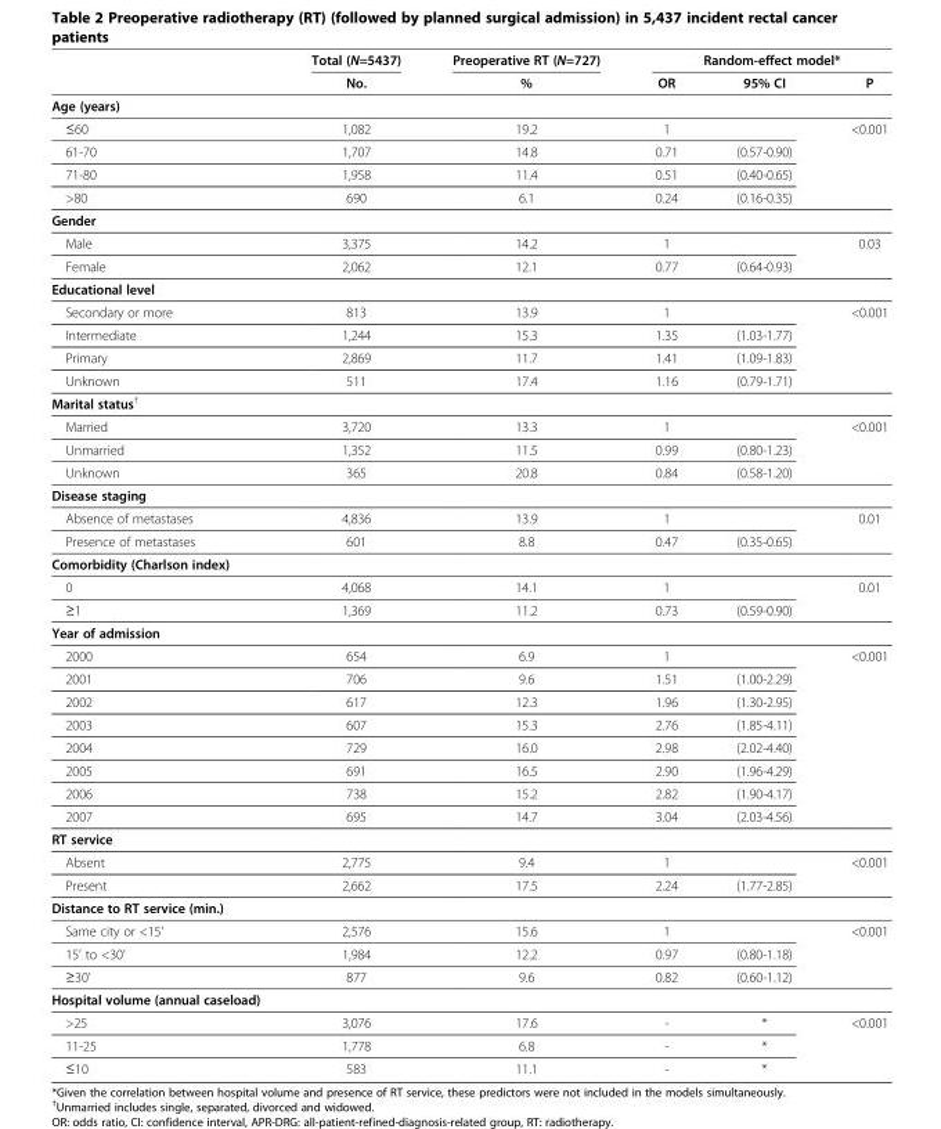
<table><thead><tr><td rowspan="2"></td><td rowspan="2">Total (N=5437) No.</td><td rowspan="2">Preoperative RT (N=727) %</td><td colspan="3">Random-effect model*</td></tr><tr><td>OR</td><td>95% CI</td><td>P</td></tr></thead><tbody><tr><td colspan="6">Age (years)</td></tr><tr><td>≤60</td><td>1,082</td><td>19.2</td><td>1</td><td></td><td>&lt;0.001</td></tr><tr><td>61-70</td><td>1,707</td><td>14.8</td><td>0.71</td><td>(0.57-0.90)</td><td></td></tr><tr><td>71-80</td><td>1,958</td><td>11.4</td><td>0.51</td><td>(0.40-0.65)</td><td></td></tr><tr><td>&gt;80</td><td>690</td><td>6.1</td><td>0.24</td><td>(0.16-0.35)</td><td></td></tr><tr><td colspan="6">Gender</td></tr><tr><td>Male</td><td>3,375</td><td>14.2</td><td>1</td><td></td><td>0.03</td></tr><tr><td>Female</td><td>2,062</td><td>12.1</td><td>0.77</td><td>(0.64-0.93)</td><td></td></tr><tr><td colspan="6">Educational level</td></tr><tr><td>Secondary or more</td><td>813</td><td>13.9</td><td>1</td><td></td><td>&lt;0.001</td></tr><tr><td>Intermediate</td><td>1,244</td><td>15.3</td><td>1.35</td><td>(1.03-1.77)</td><td></td></tr><tr><td>Primary</td><td>2,869</td><td>11.7</td><td>1.41</td><td>(1.09-1.83)</td><td></td></tr><tr><td>Unknown</td><td>511</td><td>17.4</td><td>1.16</td><td>(0.79-1.71)</td><td></td></tr><tr><td colspan="6">Marital status<sup>†</sup></td></tr><tr><td>Married</td><td>3,720</td><td>13.3</td><td>1</td><td></td><td>&lt;0.001</td></tr><tr><td>Unmarried</td><td>1,352</td><td>11.5</td><td>0.99</td><td>(0.80-1.23)</td><td></td></tr><tr><td>Unknown</td><td>365</td><td>20.8</td><td>0.84</td><td>(0.58-1.20)</td><td></td></tr><tr><td colspan="6">Disease staging</td></tr><tr><td>Absence of metastases</td><td>4,836</td><td>13.9</td><td>1</td><td></td><td>0.01</td></tr><tr><td>Presence of metastases</td><td>601</td><td>8.8</td><td>0.47</td><td>(0.35-0.65)</td><td></td></tr><tr><td colspan="6">Comorbidity (Charlson index)</td></tr><tr><td>0</td><td>4,068</td><td>14.1</td><td>1</td><td></td><td>0.01</td></tr><tr><td>≥1</td><td>1,369</td><td>11.2</td><td>0.73</td><td>(0.59-0.90)</td><td></td></tr><tr><td colspan="6">Year of admission</td></tr><tr><td>2000</td><td>654</td><td>6.9</td><td>1</td><td></td><td>&lt;0.001</td></tr><tr><td>2001</td><td>706</td><td>9.6</td><td>1.51</td><td>(1.00-2.29)</td><td></td></tr><tr><td>2002</td><td>617</td><td>12.3</td><td>1.96</td><td>(1.30-2.95)</td><td></td></tr><tr><td>2003</td><td>607</td><td>15.3</td><td>2.76</td><td>(1.85-4.11)</td><td></td></tr><tr><td>2004</td><td>729</td><td>16.0</td><td>2.98</td><td>(2.02-4.40)</td><td></td></tr><tr><td>2005</td><td>691</td><td>16.5</td><td>2.90</td><td>(1.96-4.29)</td><td></td></tr><tr><td>2006</td><td>738</td><td>15.2</td><td>2.82</td><td>(1.90-4.17)</td><td></td></tr><tr><td>2007</td><td>695</td><td>14.7</td><td>3.04</td><td>(2.03-4.56)</td><td></td></tr><tr><td colspan="6">RT service</td></tr><tr><td>Absent</td><td>2,775</td><td>9.4</td><td>1</td><td></td><td>&lt;0.001</td></tr><tr><td>Present</td><td>2,662</td><td>17.5</td><td>2.24</td><td>(1.77-2.85)</td><td></td></tr><tr><td colspan="6">Distance to RT service (min.)</td></tr><tr><td>Same city or &lt;15’</td><td>2,576</td><td>15.6</td><td>1</td><td></td><td>&lt;0.001</td></tr><tr><td>15’ to &lt;30’</td><td>1,984</td><td>12.2</td><td>0.97</td><td>(0.80-1.18)</td><td></td></tr><tr><td>≥30’</td><td>877</td><td>9.6</td><td>0.82</td><td>(0.60-1.12)</td><td></td></tr><tr><td colspan="6">Hospital volume (annual caseload)</td></tr><tr><td>&gt;25</td><td>3,076</td><td>17.6</td><td>-</td><td>*</td><td>&lt;0.001</td></tr><tr><td>11-25</td><td>1,778</td><td>6.8</td><td>-</td><td>*</td><td></td></tr><tr><td>≤10</td><td>583</td><td>11.1</td><td>-</td><td>*</td><td></td></tr></tbody></table>